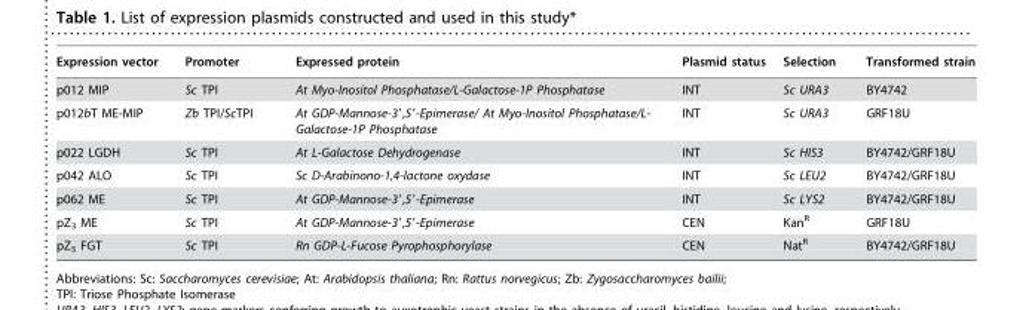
<table><thead><tr><td>Expression vector</td><td>Promoter</td><td>Expressed protein</td><td>Plasmid status</td><td>Selection</td><td>Transformed strain</td></tr></thead><tbody><tr><td>p012 MIP</td><td>Sc TPI</td><td>At Myo-Inositol Phosphatase/L-Galactose-1P Phosphatase</td><td>INT</td><td>Sc URA3</td><td>BY4742</td></tr><tr><td>p012bT ME-MIP</td><td>Zb TPI/ScTPI</td><td>At GDP-Mannose-3′,5′-Epimerase/ At Myo-Inositol Phosphatase/L- Galactose-1P Phosphatase</td><td>INT</td><td>Sc URA3</td><td>GRF18U</td></tr><tr><td>p022 LGDH</td><td>Sc TPI</td><td>At L-Galactose Dehydrogenase</td><td>INT</td><td>Sc HIS3</td><td>BY4742/GRF18U</td></tr><tr><td>p042 ALO</td><td>Sc TPI</td><td>Sc D-Arabinono-1,4-lactone oxydase</td><td>INT</td><td>Sc LEU2</td><td>BY4742/GRF18U</td></tr><tr><td>p062 ME</td><td>Sc TPI</td><td>At GDP-Mannose-3′,5′-Epimerase</td><td>INT</td><td>Sc LYS2</td><td>BY4742/GRF18U</td></tr><tr><td>pZ<sub>3</sub> ME</td><td>Sc TPI</td><td>At GDP-Mannose-3′,5′-Epimerase</td><td>CEN</td><td>Kan<sup>R</sup></td><td>GRF18U</td></tr><tr><td>pZ<sub>5</sub> FGT</td><td>Sc TPI</td><td>Rn GDP-L-Fucose Pyrophosphorylase</td><td>CEN</td><td>Nat<sup>R</sup></td><td>BY4742/GRF18U</td></tr></tbody></table>